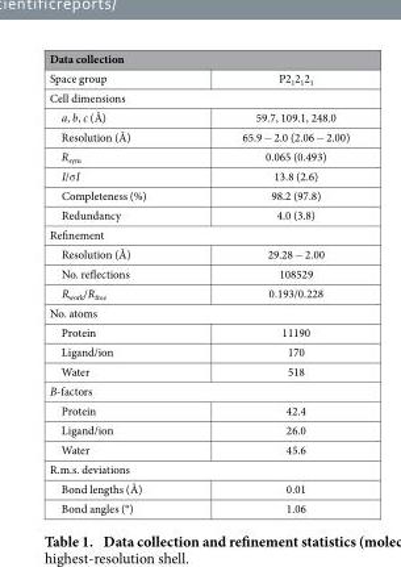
<table><thead><tr><td colspan="2">Data collection</td></tr><tr><td>Space group</td><td>P2<sub>1</sub>2<sub>1</sub>2<sub>1</sub></td></tr></thead><tbody><tr><td colspan="2">Cell dimensions</td></tr><tr><td>a, b, c (Å)</td><td>59.7, 109.1, 248.0</td></tr><tr><td>Resolution (Å)</td><td>65.9 − 2.0 (2.06 − 2.00)</td></tr><tr><td>R<sub>sym</sub></td><td>0.065 (0.493)</td></tr><tr><td>I/σ I</td><td>13.8 (2.6)</td></tr><tr><td>Completeness (%)</td><td>98.2 (97.8)</td></tr><tr><td>Redundancy</td><td>4.0 (3.8)</td></tr><tr><td colspan="2">Refinement</td></tr><tr><td>Resolution (Å)</td><td>29.28 − 2.00</td></tr><tr><td>No. reflections</td><td>108529</td></tr><tr><td>R<sub>work</sub>/R<sub>free</sub></td><td>0.193/0.228</td></tr><tr><td colspan="2">No. atoms</td></tr><tr><td>Protein</td><td>11190</td></tr><tr><td>Ligand/ion</td><td>170</td></tr><tr><td>Water</td><td>518</td></tr><tr><td colspan="2">B-factors</td></tr><tr><td>Protein</td><td>42.4</td></tr><tr><td>Ligand/ion</td><td>26.0</td></tr><tr><td>Water</td><td>45.6</td></tr><tr><td colspan="2">R.m.s. deviations</td></tr><tr><td>Bond lengths (Å)</td><td>0.01</td></tr><tr><td>Bond angles (°)</td><td>1.06</td></tr></tbody></table>